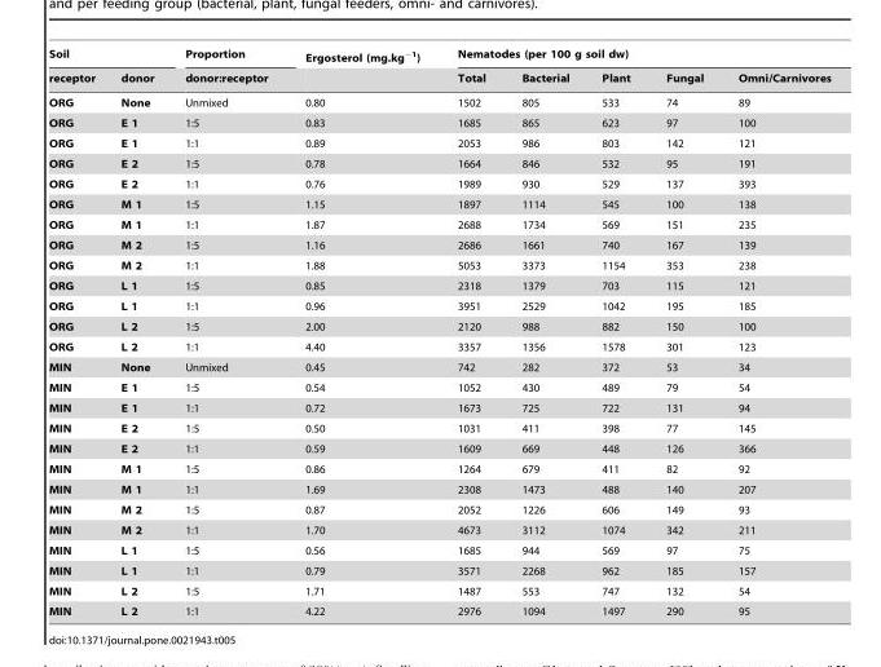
<table><thead><tr><td colspan="2">Soil</td><td rowspan="2">Proportion donor:receptor</td><td rowspan="2">Ergosterol (mg.kg<sup>−1</sup>)</td><td colspan="5">Nematodes (per 100 g soil dw)</td></tr><tr><td>receptor</td><td>donor</td><td>Total</td><td>Bacterial</td><td>Plant</td><td>Fungal</td><td>Omni/Carnivores</td></tr></thead><tbody><tr><td>ORG</td><td>None</td><td>Unmixed</td><td>0.80</td><td>1502</td><td>805</td><td>533</td><td>74</td><td>89</td></tr><tr><td>ORG</td><td>E 1</td><td>1:5</td><td>0.83</td><td>1685</td><td>865</td><td>623</td><td>97</td><td>100</td></tr><tr><td>ORG</td><td>E 1</td><td>1:1</td><td>0.89</td><td>2053</td><td>986</td><td>803</td><td>142</td><td>121</td></tr><tr><td>ORG</td><td>E 2</td><td>1:5</td><td>0.78</td><td>1664</td><td>846</td><td>532</td><td>95</td><td>191</td></tr><tr><td>ORG</td><td>E 2</td><td>1:1</td><td>0.76</td><td>1989</td><td>930</td><td>529</td><td>137</td><td>393</td></tr><tr><td>ORG</td><td>M 1</td><td>1:5</td><td>1.15</td><td>1897</td><td>1114</td><td>545</td><td>100</td><td>138</td></tr><tr><td>ORG</td><td>M 1</td><td>1:1</td><td>1.87</td><td>2688</td><td>1734</td><td>569</td><td>151</td><td>235</td></tr><tr><td>ORG</td><td>M 2</td><td>1:5</td><td>1.16</td><td>2686</td><td>1661</td><td>740</td><td>167</td><td>139</td></tr><tr><td>ORG</td><td>M 2</td><td>1:1</td><td>1.88</td><td>5053</td><td>3373</td><td>1154</td><td>353</td><td>238</td></tr><tr><td>ORG</td><td>L 1</td><td>1:5</td><td>0.85</td><td>2318</td><td>1379</td><td>703</td><td>115</td><td>121</td></tr><tr><td>ORG</td><td>L 1</td><td>1:1</td><td>0.96</td><td>3951</td><td>2529</td><td>1042</td><td>195</td><td>185</td></tr><tr><td>ORG</td><td>L 2</td><td>1:5</td><td>2.00</td><td>2120</td><td>988</td><td>882</td><td>150</td><td>100</td></tr><tr><td>ORG</td><td>L 2</td><td>1:1</td><td>4.40</td><td>3357</td><td>1356</td><td>1578</td><td>301</td><td>123</td></tr><tr><td>MIN</td><td>None</td><td>Unmixed</td><td>0.45</td><td>742</td><td>282</td><td>372</td><td>53</td><td>34</td></tr><tr><td>MIN</td><td>E 1</td><td>1:5</td><td>0.54</td><td>1052</td><td>430</td><td>489</td><td>79</td><td>54</td></tr><tr><td>MIN</td><td>E 1</td><td>1:1</td><td>0.72</td><td>1673</td><td>725</td><td>722</td><td>131</td><td>94</td></tr><tr><td>MIN</td><td>E 2</td><td>1:5</td><td>0.50</td><td>1031</td><td>411</td><td>398</td><td>77</td><td>145</td></tr><tr><td>MIN</td><td>E 2</td><td>1:1</td><td>0.59</td><td>1609</td><td>669</td><td>448</td><td>126</td><td>366</td></tr><tr><td>MIN</td><td>M 1</td><td>1:5</td><td>0.86</td><td>1264</td><td>679</td><td>411</td><td>82</td><td>92</td></tr><tr><td>MIN</td><td>M 1</td><td>1:1</td><td>1.69</td><td>2308</td><td>1473</td><td>488</td><td>140</td><td>207</td></tr><tr><td>MIN</td><td>M 2</td><td>1:5</td><td>0.87</td><td>2052</td><td>1226</td><td>606</td><td>149</td><td>93</td></tr><tr><td>MIN</td><td>M 2</td><td>1:1</td><td>1.70</td><td>4673</td><td>3112</td><td>1074</td><td>342</td><td>211</td></tr><tr><td>MIN</td><td>L 1</td><td>1:5</td><td>0.56</td><td>1685</td><td>944</td><td>569</td><td>97</td><td>75</td></tr><tr><td>MIN</td><td>L 1</td><td>1:1</td><td>0.79</td><td>3571</td><td>2268</td><td>962</td><td>185</td><td>157</td></tr><tr><td>MIN</td><td>L 2</td><td>1:5</td><td>1.71</td><td>1487</td><td>553</td><td>747</td><td>132</td><td>54</td></tr><tr><td>MIN</td><td>L 2</td><td>1:1</td><td>4.22</td><td>2976</td><td>1094</td><td>1497</td><td>290</td><td>95</td></tr></tbody></table>